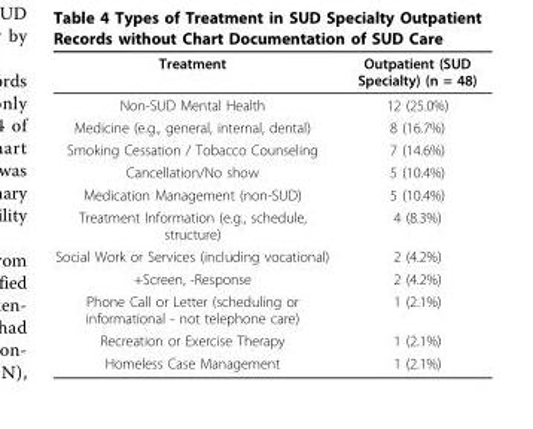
<table><thead><tr><td>Treatment</td><td>Outpatient (SUD Specialty) (n = 48)</td></tr></thead><tbody><tr><td>Non-SUD Mental Health</td><td>12 (25.0%)</td></tr><tr><td>Medicine (e.g., general, internal, dental)</td><td>8 (16.7%)</td></tr><tr><td>Smoking Cessation / Tobacco Counseling</td><td>7 (14.6%)</td></tr><tr><td>Cancellation/No show</td><td>5 (10.4%)</td></tr><tr><td>Medication Management (non-SUD)</td><td>5 (10.4%)</td></tr><tr><td>Treatment Information (e.g., schedule, structure)</td><td>4 (8.3%)</td></tr><tr><td>Social Work or Services (including vocational)</td><td>2 (4.2%)</td></tr><tr><td>+Screen, -Response</td><td>2 (4.2%)</td></tr><tr><td>Phone Call or Letter (scheduling or informational - not telephone care)</td><td>1 (2.1%)</td></tr><tr><td>Recreation or Exercise Therapy</td><td>1 (2.1%)</td></tr><tr><td>Homeless Case Management</td><td>1 (2.1%)</td></tr></tbody></table>